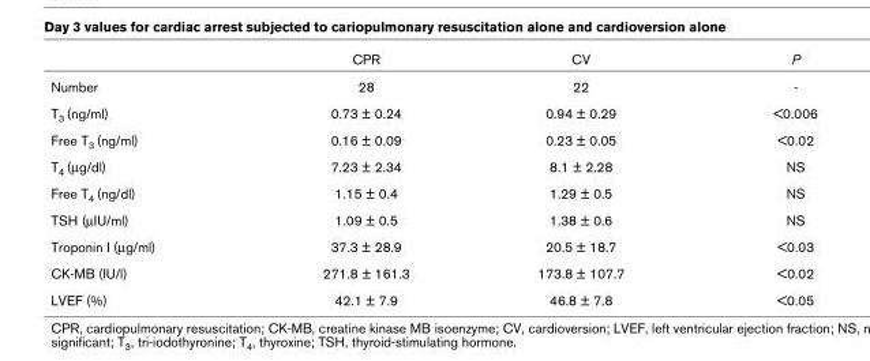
<table><thead><tr><td></td><td>CPR</td><td>CV</td><td>P</td></tr></thead><tbody><tr><td>Number</td><td>28</td><td>22</td><td>-</td></tr><tr><td>T3 (ng/ml)</td><td>0.73 ± 0.24</td><td>0.94 ± 0.29</td><td>&lt;0.006</td></tr><tr><td>Free T3 (ng/ml)</td><td>0.16 ± 0.09</td><td>0.23 ± 0.05</td><td>&lt;0.02</td></tr><tr><td>T4 (µg/dl)</td><td>7.23 ± 2.34</td><td>8.1 ± 2.28</td><td>NS</td></tr><tr><td>Free T4 (ng/dl)</td><td>1.15 ± 0.4</td><td>1.29 ± 0.5</td><td>NS</td></tr><tr><td>TSH (µIU/ml)</td><td>1.09 ± 0.5</td><td>1.38 ± 0.6</td><td>NS</td></tr><tr><td>Troponin I (µg/ml)</td><td>37.3 ± 28.9</td><td>20.5 ± 18.7</td><td>&lt;0.03</td></tr><tr><td>CK-MB (IU/l)</td><td>271.8 ± 161.3</td><td>173.8 ± 107.7</td><td>&lt;0.02</td></tr><tr><td>LVEF (%)</td><td>42.1 ± 7.9</td><td>46.8 ± 7.8</td><td>&lt;0.05</td></tr></tbody></table>